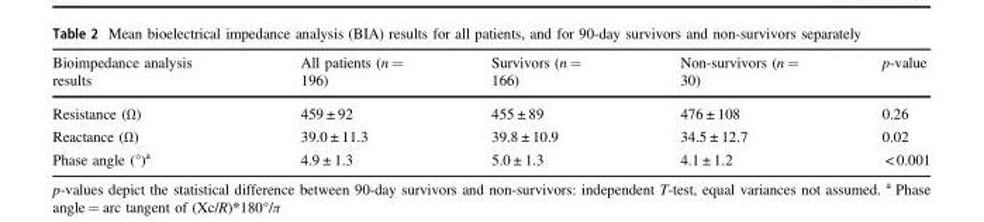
<table><thead><tr><td>Bioimpedance analysis results</td><td>All patients (n = 196)</td><td>Survivors (n = 166)</td><td>Non-survivors (n = 30)</td><td>p-value</td></tr></thead><tbody><tr><td>Resistance (Ω)</td><td>459 ± 92</td><td>455 ± 89</td><td>476 ± 108</td><td>0.26</td></tr><tr><td>Reactance (Ω)</td><td>39.0 ± 11.3</td><td>39.8 ± 10.9</td><td>34.5 ± 12.7</td><td>0.02</td></tr><tr><td>Phase angle (°)<sup>a</sup></td><td>4.9 ± 1.3</td><td>5.0 ± 1.3</td><td>4.1 ± 1.2</td><td>&lt; 0.001</td></tr></tbody></table>